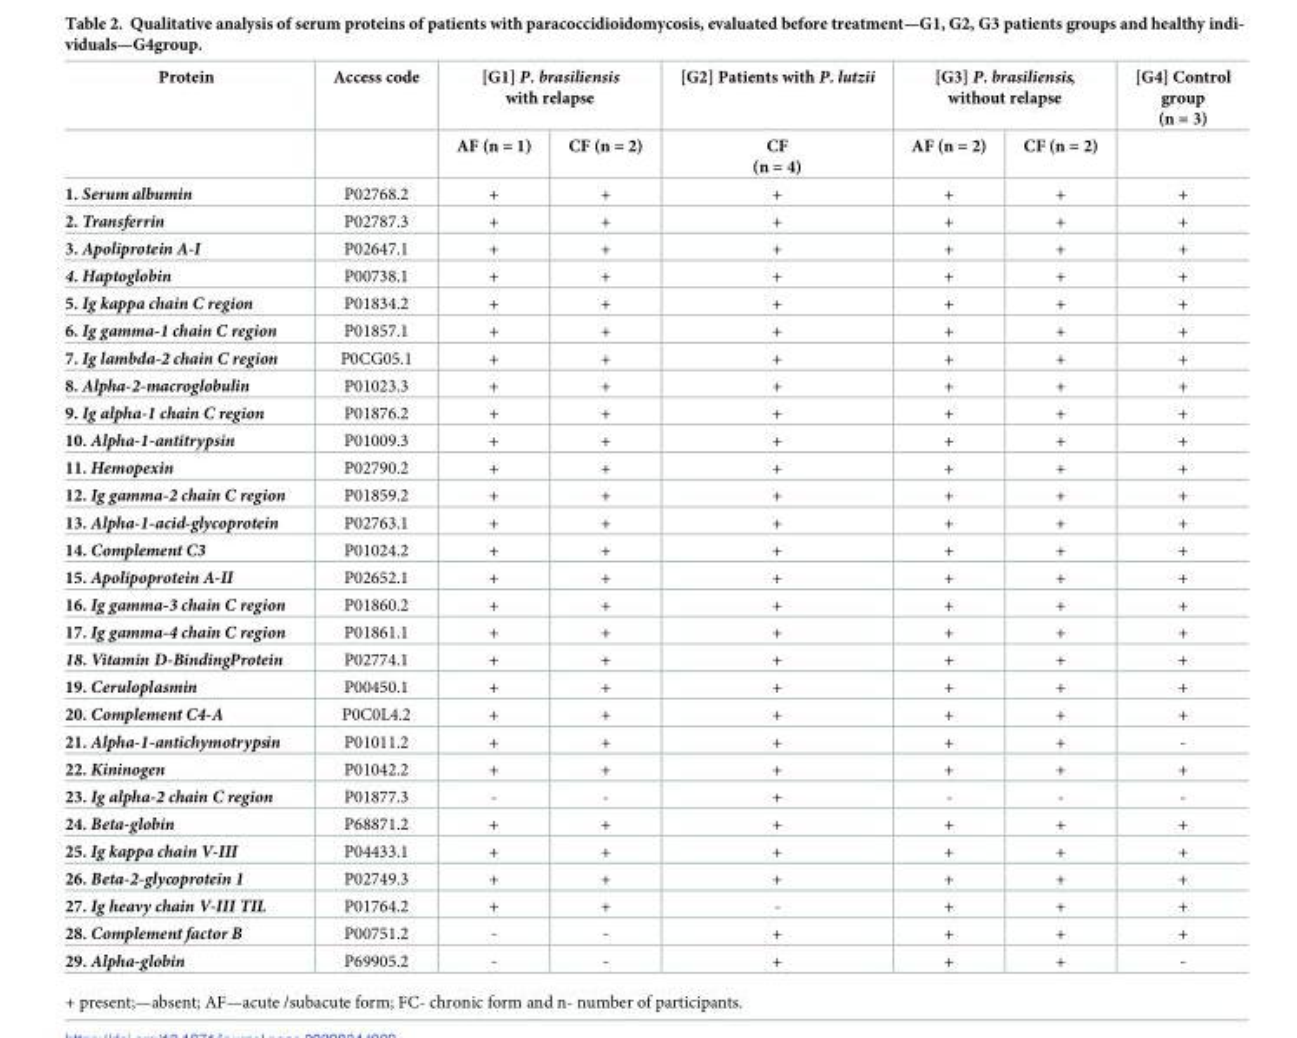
<table><thead><tr><td rowspan="2">Protein</td><td rowspan="2">Access code</td><td colspan="2">[G1] P. brasiliensis with relapse</td><td rowspan="2">[G2] Patients with P. lutzii CF (n = 4)</td><td colspan="2">[G3] P. brasiliensis, without relapse</td><td rowspan="2">[G4] Control group (n = 3)</td></tr><tr><td>AF (n = 1)</td><td>CF (n = 2)</td><td>AF (n = 2)</td><td>CF (n = 2)</td></tr></thead><tbody><tr><td>1. Serum albumin</td><td>P02768.2</td><td>+</td><td>+</td><td>+</td><td>+</td><td>+</td><td>+</td></tr><tr><td>2. Transferrin</td><td>P02787.3</td><td>+</td><td>+</td><td>+</td><td>+</td><td>+</td><td>+</td></tr><tr><td>3. Apoliprotein A-I</td><td>P02647.1</td><td>+</td><td>+</td><td>+</td><td>+</td><td>+</td><td>+</td></tr><tr><td>4. Haptoglobin</td><td>P00738.1</td><td>+</td><td>+</td><td>+</td><td>+</td><td>+</td><td>+</td></tr><tr><td>5. Ig kappa chain C region</td><td>P01834.2</td><td>+</td><td>+</td><td>+</td><td>+</td><td>+</td><td>+</td></tr><tr><td>6. Ig gamma-1 chain C region</td><td>P01857.1</td><td>+</td><td>+</td><td>+</td><td>+</td><td>+</td><td>+</td></tr><tr><td>7. Ig lambda-2 chain C region</td><td>P0CG05.1</td><td>+</td><td>+</td><td>+</td><td>+</td><td>+</td><td>+</td></tr><tr><td>8. Alpha-2-macroglobulin</td><td>P01023.3</td><td>+</td><td>+</td><td>+</td><td>+</td><td>+</td><td>+</td></tr><tr><td>9. Ig alpha-1 chain C region</td><td>P01876.2</td><td>+</td><td>+</td><td>+</td><td>+</td><td>+</td><td>+</td></tr><tr><td>10. Alpha-1-antitrypsin</td><td>P01009.3</td><td>+</td><td>+</td><td>+</td><td>+</td><td>+</td><td>+</td></tr><tr><td>11. Hemopexin</td><td>P02790.2</td><td>+</td><td>+</td><td>+</td><td>+</td><td>+</td><td>+</td></tr><tr><td>12. Ig gamma-2 chain C region</td><td>P01859.2</td><td>+</td><td>+</td><td>+</td><td>+</td><td>+</td><td>+</td></tr><tr><td>13. Alpha-1-acid-glycoprotein</td><td>P02763.1</td><td>+</td><td>+</td><td>+</td><td>+</td><td>+</td><td>+</td></tr><tr><td>14. Complement C3</td><td>P01024.2</td><td>+</td><td>+</td><td>+</td><td>+</td><td>+</td><td>+</td></tr><tr><td>15. Apolipoprotein A-II</td><td>P02652.1</td><td>+</td><td>+</td><td>+</td><td>+</td><td>+</td><td>+</td></tr><tr><td>16. Ig gamma-3 chain C region</td><td>P01860.2</td><td>+</td><td>+</td><td>+</td><td>+</td><td>+</td><td>+</td></tr><tr><td>17. Ig gamma-4 chain C region</td><td>P01861.1</td><td>+</td><td>+</td><td>+</td><td>+</td><td>+</td><td>+</td></tr><tr><td>18. Vitamin D-BindingProtein</td><td>P02774.1</td><td>+</td><td>+</td><td>+</td><td>+</td><td>+</td><td>+</td></tr><tr><td>19. Ceruloplasmin</td><td>P00450.1</td><td>+</td><td>+</td><td>+</td><td>+</td><td>+</td><td>+</td></tr><tr><td>20. Complement C4-A</td><td>P0C0L4.2</td><td>+</td><td>+</td><td>+</td><td>+</td><td>+</td><td>+</td></tr><tr><td>21. Alpha-1-antichymotrypsin</td><td>P01011.2</td><td>+</td><td>+</td><td>+</td><td>+</td><td>+</td><td>-</td></tr><tr><td>22. Kininogen</td><td>P01042.2</td><td>+</td><td>+</td><td>+</td><td>+</td><td>+</td><td>+</td></tr><tr><td>23. Ig alpha-2 chain C region</td><td>P01877.3</td><td>-</td><td>-</td><td>+</td><td>-</td><td>-</td><td>-</td></tr><tr><td>24. Beta-globin</td><td>P68871.2</td><td>+</td><td>+</td><td>+</td><td>+</td><td>+</td><td>+</td></tr><tr><td>25. Ig kappa chain V-III</td><td>P04433.1</td><td>+</td><td>+</td><td>+</td><td>+</td><td>+</td><td>+</td></tr><tr><td>26. Beta-2-glycoprotein 1</td><td>P02749.3</td><td>+</td><td>+</td><td>+</td><td>+</td><td>+</td><td>+</td></tr><tr><td>27. Ig heavy chain V-III TIL</td><td>P01764.2</td><td>+</td><td>+</td><td>-</td><td>+</td><td>+</td><td>+</td></tr><tr><td>28. Complement factor B</td><td>P00751.2</td><td>-</td><td>-</td><td>+</td><td>+</td><td>+</td><td>+</td></tr><tr><td>29. Alpha-globin</td><td>P69905.2</td><td>-</td><td>-</td><td>+</td><td>+</td><td>+</td><td>-</td></tr></tbody></table>